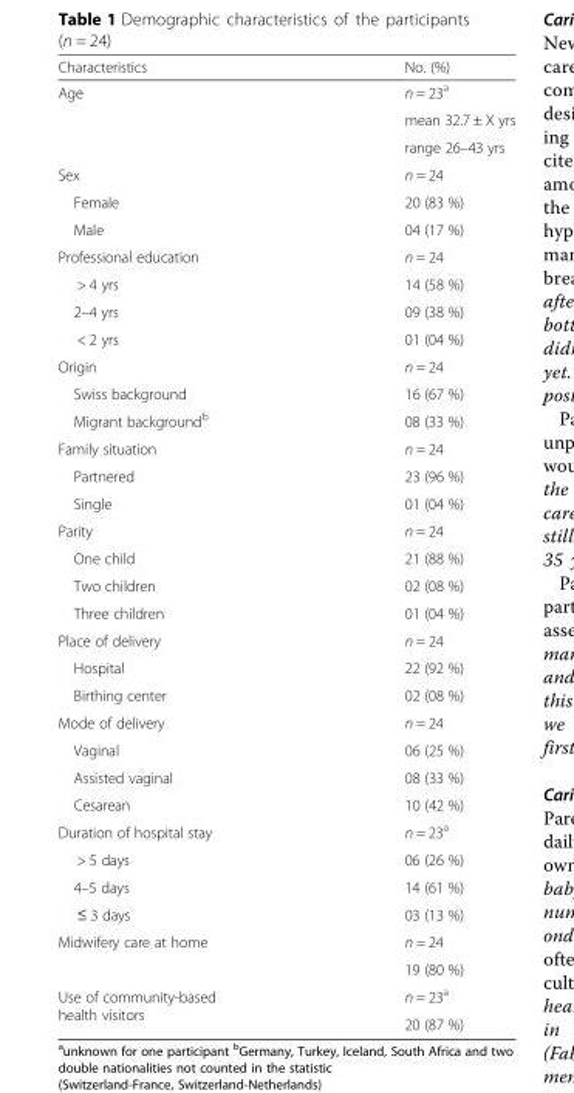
<table><thead><tr><td>Characteristics</td><td>No. (%)</td></tr></thead><tbody><tr><td rowspan="3">Age</td><td>n = 23<sup>a</sup></td></tr><tr><td>mean 32.7 ± X yrs</td></tr><tr><td>range 26–43 yrs</td></tr><tr><td>Sex</td><td>n = 24</td></tr><tr><td>Female</td><td>20 (83 %)</td></tr><tr><td>Male</td><td>04 (17 %)</td></tr><tr><td>Professional education</td><td>n = 24</td></tr><tr><td>&gt; 4 yrs</td><td>14 (58 %)</td></tr><tr><td>2–4 yrs</td><td>09 (38 %)</td></tr><tr><td>&lt; 2 yrs</td><td>01 (04 %)</td></tr><tr><td>Origin</td><td>n = 24</td></tr><tr><td>Swiss background</td><td>16 (67 %)</td></tr><tr><td>Migrant background<sup>b</sup></td><td>08 (33 %)</td></tr><tr><td>Family situation</td><td>n = 24</td></tr><tr><td>Partnered</td><td>23 (96 %)</td></tr><tr><td>Single</td><td>01 (04 %)</td></tr><tr><td>Parity</td><td>n = 24</td></tr><tr><td>One child</td><td>21 (88 %)</td></tr><tr><td>Two children</td><td>02 (08 %)</td></tr><tr><td>Three children</td><td>01 (04 %)</td></tr><tr><td>Place of delivery</td><td>n = 24</td></tr><tr><td>Hospital</td><td>22 (92 %)</td></tr><tr><td>Birthing center</td><td>02 (08 %)</td></tr><tr><td>Mode of delivery</td><td>n = 24</td></tr><tr><td>Vaginal</td><td>06 (25 %)</td></tr><tr><td>Assisted vaginal</td><td>08 (33 %)</td></tr><tr><td>Cesarean</td><td>10 (42 %)</td></tr><tr><td>Duration of hospital stay</td><td>n = 23<sup>a</sup></td></tr><tr><td>&gt; 5 days</td><td>06 (26 %)</td></tr><tr><td>4–5 days</td><td>14 (61 %)</td></tr><tr><td>≤ 3 days</td><td>03 (13 %)</td></tr><tr><td rowspan="2">Midwifery care at home</td><td>n = 24</td></tr><tr><td>19 (80 %)</td></tr><tr><td rowspan="2">Use of community-based health visitors</td><td>n = 23<sup>a</sup></td></tr><tr><td>20 (87 %)</td></tr></tbody></table>